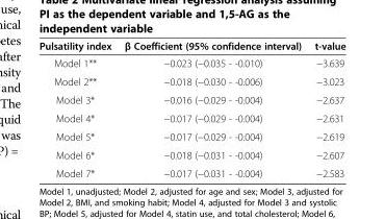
<table><thead><tr><td>Pulsatility index</td><td>β Coefficient (95% confidence interval)</td><td>t-value</td></tr></thead><tbody><tr><td>Model 1**</td><td>−0.023 (−0.035 - -0.010)</td><td>−3.639</td></tr><tr><td>Model 2**</td><td>−0.018 (−0.030 - -0.006)</td><td>−3.023</td></tr><tr><td>Model 3*</td><td>−0.016 (−0.029 - -0.004)</td><td>−2.637</td></tr><tr><td>Model 4*</td><td>−0.017 (−0.029 - -0.004)</td><td>−2.631</td></tr><tr><td>Model 5*</td><td>−0.017 (−0.029 - -0.004)</td><td>−2.619</td></tr><tr><td>Model 6*</td><td>−0.018 (−0.031 - -0.004)</td><td>−2.607</td></tr><tr><td>Model 7*</td><td>−0.017 (−0.031 - -0.004)</td><td>−2.583</td></tr></tbody></table>